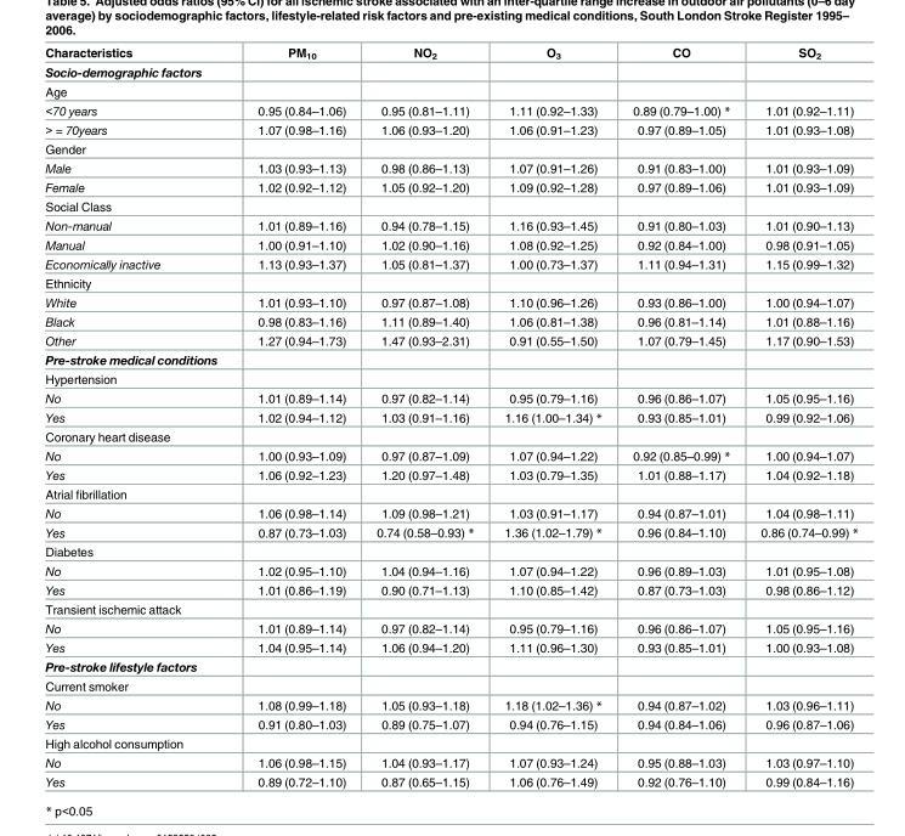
<table><thead><tr><td>Characteristics</td><td>PM<sub>10</sub></td><td>NO<sub>2</sub></td><td>O<sub>3</sub></td><td>CO</td><td>SO<sub>2</sub></td></tr></thead><tbody><tr><td colspan="6">Socio-demographic factors</td></tr><tr><td colspan="6">Age</td></tr><tr><td>&lt;70 years</td><td>0.95 (0.84–1.06)</td><td>0.95 (0.81–1.11)</td><td>1.11 (0.92–1.33)</td><td>0.89 (0.79–1.00) *</td><td>1.01 (0.92–1.11)</td></tr><tr><td>&gt; = 70years</td><td>1.07 (0.98–1.16)</td><td>1.06 (0.93–1.20)</td><td>1.06 (0.91–1.23)</td><td>0.97 (0.89–1.05)</td><td>1.01 (0.93–1.08)</td></tr><tr><td colspan="6">Gender</td></tr><tr><td>Male</td><td>1.03 (0.93–1.13)</td><td>0.98 (0.86–1.13)</td><td>1.07 (0.91–1.26)</td><td>0.91 (0.83–1.00)</td><td>1.01 (0.93–1.09)</td></tr><tr><td>Female</td><td>1.02 (0.92–1.12)</td><td>1.05 (0.92–1.20)</td><td>1.09 (0.92–1.28)</td><td>0.97 (0.89–1.06)</td><td>1.01 (0.93–1.09)</td></tr><tr><td colspan="6">Social Class</td></tr><tr><td>Non-manual</td><td>1.01 (0.89–1.16)</td><td>0.94 (0.78–1.15)</td><td>1.16 (0.93–1.45)</td><td>0.91 (0.80–1.03)</td><td>1.01 (0.90–1.13)</td></tr><tr><td>Manual</td><td>1.00 (0.91–1.10)</td><td>1.02 (0.90–1.16)</td><td>1.08 (0.92–1.25)</td><td>0.92 (0.84–1.00)</td><td>0.98 (0.91–1.05)</td></tr><tr><td>Economically inactive</td><td>1.13 (0.93–1.37)</td><td>1.05 (0.81–1.37)</td><td>1.00 (0.73–1.37)</td><td>1.11 (0.94–1.31)</td><td>1.15 (0.99–1.32)</td></tr><tr><td colspan="6">Ethnicity</td></tr><tr><td>White</td><td>1.01 (0.93–1.10)</td><td>0.97 (0.87–1.08)</td><td>1.10 (0.96–1.26)</td><td>0.93 (0.86–1.00)</td><td>1.00 (0.94–1.07)</td></tr><tr><td>Black</td><td>0.98 (0.83–1.16)</td><td>1.11 (0.89–1.40)</td><td>1.06 (0.81–1.38)</td><td>0.96 (0.81–1.14)</td><td>1.01 (0.88–1.16)</td></tr><tr><td>Other</td><td>1.27 (0.94–1.73)</td><td>1.47 (0.93–2.31)</td><td>0.91 (0.55–1.50)</td><td>1.07 (0.79–1.45)</td><td>1.17 (0.90–1.53)</td></tr><tr><td colspan="6">Pre-stroke medical conditions</td></tr><tr><td colspan="6">Hypertension</td></tr><tr><td>No</td><td>1.01 (0.89–1.14)</td><td>0.97 (0.82–1.14)</td><td>0.95 (0.79–1.16)</td><td>0.96 (0.86–1.07)</td><td>1.05 (0.95–1.16)</td></tr><tr><td>Yes</td><td>1.02 (0.94–1.12)</td><td>1.03 (0.91–1.16)</td><td>1.16 (1.00–1.34) *</td><td>0.93 (0.85–1.01)</td><td>0.99 (0.92–1.06)</td></tr><tr><td colspan="6">Coronary heart disease</td></tr><tr><td>No</td><td>1.00 (0.93–1.09)</td><td>0.97 (0.87–1.09)</td><td>1.07 (0.94–1.22)</td><td>0.92 (0.85–0.99) *</td><td>1.00 (0.94–1.07)</td></tr><tr><td>Yes</td><td>1.06 (0.92–1.23)</td><td>1.20 (0.97–1.48)</td><td>1.03 (0.79–1.35)</td><td>1.01 (0.88–1.17)</td><td>1.04 (0.92–1.18)</td></tr><tr><td colspan="6">Atrial fibrillation</td></tr><tr><td>No</td><td>1.06 (0.98–1.14)</td><td>1.09 (0.98–1.21)</td><td>1.03 (0.91–1.17)</td><td>0.94 (0.87–1.01)</td><td>1.04 (0.98–1.11)</td></tr><tr><td>Yes</td><td>0.87 (0.73–1.03)</td><td>0.74 (0.58–0.93) *</td><td>1.36 (1.02–1.79) *</td><td>0.96 (0.84–1.10)</td><td>0.86 (0.74–0.99) *</td></tr><tr><td colspan="6">Diabetes</td></tr><tr><td>No</td><td>1.02 (0.95–1.10)</td><td>1.04 (0.94–1.16)</td><td>1.07 (0.94–1.22)</td><td>0.96 (0.89–1.03)</td><td>1.01 (0.95–1.08)</td></tr><tr><td>Yes</td><td>1.01 (0.86–1.19)</td><td>0.90 (0.71–1.13)</td><td>1.10 (0.85–1.42)</td><td>0.87 (0.73–1.03)</td><td>0.98 (0.86–1.12)</td></tr><tr><td colspan="6">Transient ischemic attack</td></tr><tr><td>No</td><td>1.01 (0.89–1.14)</td><td>0.97 (0.82–1.14)</td><td>0.95 (0.79–1.16)</td><td>0.96 (0.86–1.07)</td><td>1.05 (0.95–1.16)</td></tr><tr><td>Yes</td><td>1.04 (0.95–1.14)</td><td>1.06 (0.94–1.20)</td><td>1.11 (0.96–1.30)</td><td>0.93 (0.85–1.01)</td><td>1.00 (0.93–1.08)</td></tr><tr><td colspan="6">Pre-stroke lifestyle factors</td></tr><tr><td colspan="6">Current smoker</td></tr><tr><td>No</td><td>1.08 (0.99–1.18)</td><td>1.05 (0.93–1.18)</td><td>1.18 (1.02–1.36) *</td><td>0.94 (0.87–1.02)</td><td>1.03 (0.96–1.11)</td></tr><tr><td>Yes</td><td>0.91 (0.80–1.03)</td><td>0.89 (0.75–1.07)</td><td>0.94 (0.76–1.15)</td><td>0.94 (0.84–1.06)</td><td>0.96 (0.87–1.06)</td></tr><tr><td colspan="6">High alcohol consumption</td></tr><tr><td>No</td><td>1.06 (0.98–1.15)</td><td>1.04 (0.93–1.17)</td><td>1.07 (0.93–1.24)</td><td>0.95 (0.88–1.03)</td><td>1.03 (0.97–1.10)</td></tr><tr><td>Yes</td><td>0.89 (0.72–1.10)</td><td>0.87 (0.65–1.15)</td><td>1.06 (0.76–1.49)</td><td>0.92 (0.76–1.10)</td><td>0.99 (0.84–1.16)</td></tr></tbody></table>